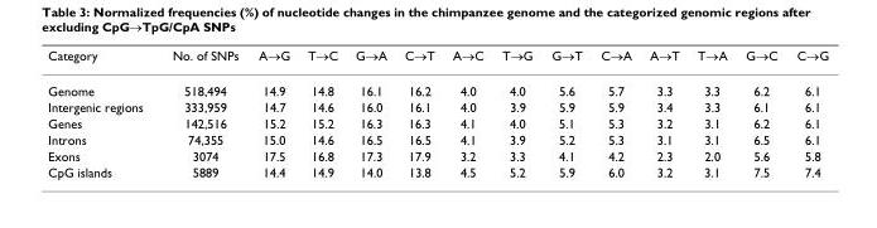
<table><thead><tr><td>Category</td><td>No. of SNPs</td><td>A→G</td><td>T→C</td><td>G→A</td><td>C→T</td><td>A→C</td><td>T→G</td><td>G→T</td><td>C→A</td><td>A→T</td><td>T→A</td><td>G→C</td><td>C→G</td></tr></thead><tbody><tr><td>Genome</td><td>518,494</td><td>14.9</td><td>14.8</td><td>16.1</td><td>16.2</td><td>4.0</td><td>4.0</td><td>5.6</td><td>5.7</td><td>3.3</td><td>3.3</td><td>6.2</td><td>6.1</td></tr><tr><td>Intergenic regions</td><td>333,959</td><td>14.7</td><td>14.6</td><td>16.0</td><td>16.1</td><td>4.0</td><td>3.9</td><td>5.9</td><td>5.9</td><td>3.4</td><td>3.3</td><td>6.1</td><td>6.1</td></tr><tr><td>Genes</td><td>142,516</td><td>15.2</td><td>15.2</td><td>16.3</td><td>16.3</td><td>4.1</td><td>4.0</td><td>5.1</td><td>5.3</td><td>3.2</td><td>3.1</td><td>6.2</td><td>6.1</td></tr><tr><td>Introns</td><td>74,355</td><td>15.0</td><td>14.6</td><td>16.5</td><td>16.5</td><td>4.1</td><td>3.9</td><td>5.2</td><td>5.3</td><td>3.1</td><td>3.1</td><td>6.5</td><td>6.1</td></tr><tr><td>Exons</td><td>3074</td><td>17.5</td><td>16.8</td><td>17.3</td><td>17.9</td><td>3.2</td><td>3.3</td><td>4.1</td><td>4.2</td><td>2.3</td><td>2.0</td><td>5.6</td><td>5.8</td></tr><tr><td>CpG islands</td><td>5889</td><td>14.4</td><td>14.9</td><td>14.0</td><td>13.8</td><td>4.5</td><td>5.2</td><td>5.9</td><td>6.0</td><td>3.2</td><td>3.1</td><td>7.5</td><td>7.4</td></tr></tbody></table>